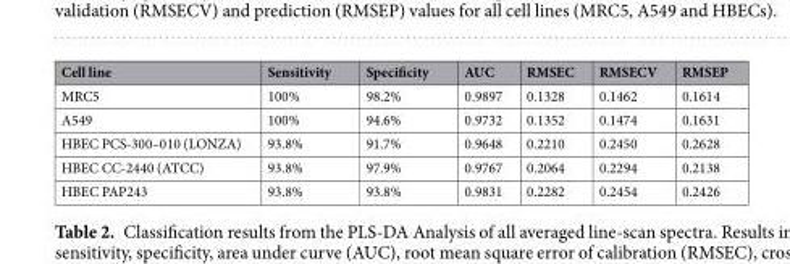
<table><thead><tr><td>Cell line</td><td>Sensitivity</td><td>Specificity</td><td>AUC</td><td>RMSEC</td><td>RMSECV</td><td>RMSEP</td></tr></thead><tbody><tr><td>MRC5</td><td>100%</td><td>98.2%</td><td>0.9897</td><td>0.1328</td><td>0.1462</td><td>0.1614</td></tr><tr><td>A549</td><td>100%</td><td>94.6%</td><td>0.9732</td><td>0.1352</td><td>0.1474</td><td>0.1631</td></tr><tr><td>HBEC PCS-300–010 (LONZA)</td><td>93.8%</td><td>91.7%</td><td>0.9648</td><td>0.2210</td><td>0.2450</td><td>0.2628</td></tr><tr><td>HBEC CC-2440 (ATCC)</td><td>93.8%</td><td>97.9%</td><td>0.9767</td><td>0.2064</td><td>0.2294</td><td>0.2138</td></tr><tr><td>HBEC PAP243</td><td>93.8%</td><td>93.8%</td><td>0.9831</td><td>0.2282</td><td>0.2454</td><td>0.2426</td></tr></tbody></table>